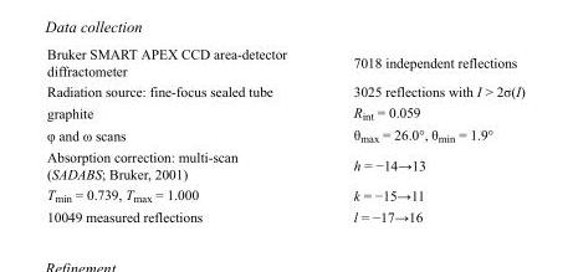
<table><tbody><tr><td>Bruker SMART APEX CCD area-detector diffractometer</td><td>7018 independent reflections</td></tr><tr><td>Radiation source: fine-focus sealed tube</td><td>3025 reflections with I &gt; 2σ(I)</td></tr><tr><td>graphite</td><td>R<sub>int</sub> = 0.059</td></tr><tr><td>φ and ω scans</td><td>θ<sub>max</sub> = 26.0°, θ<sub>min</sub> = 1.9°</td></tr><tr><td>Absorption correction: multi-scan (SADABS; Bruker, 2001)</td><td>h = −14→13</td></tr><tr><td>T<sub>min</sub> = 0.739, T<sub>max</sub> = 1.000</td><td>k = −15→11</td></tr><tr><td>10049 measured reflections</td><td>l = −17→16</td></tr></tbody></table>